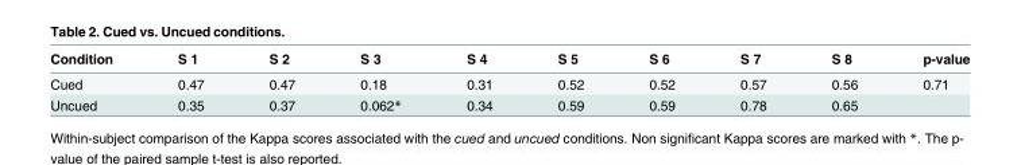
<table><thead><tr><td>Condition</td><td>S 1</td><td>S 2</td><td>S 3</td><td>S 4</td><td>S 5</td><td>S 6</td><td>S 7</td><td>S 8</td><td>p-value</td></tr></thead><tbody><tr><td>Cued</td><td>0.47</td><td>0.47</td><td>0.18</td><td>0.31</td><td>0.52</td><td>0.52</td><td>0.57</td><td>0.56</td><td>0.71</td></tr><tr><td>Uncued</td><td>0.35</td><td>0.37</td><td>0.062*</td><td>0.34</td><td>0.59</td><td>0.59</td><td>0.78</td><td>0.65</td><td></td></tr></tbody></table>